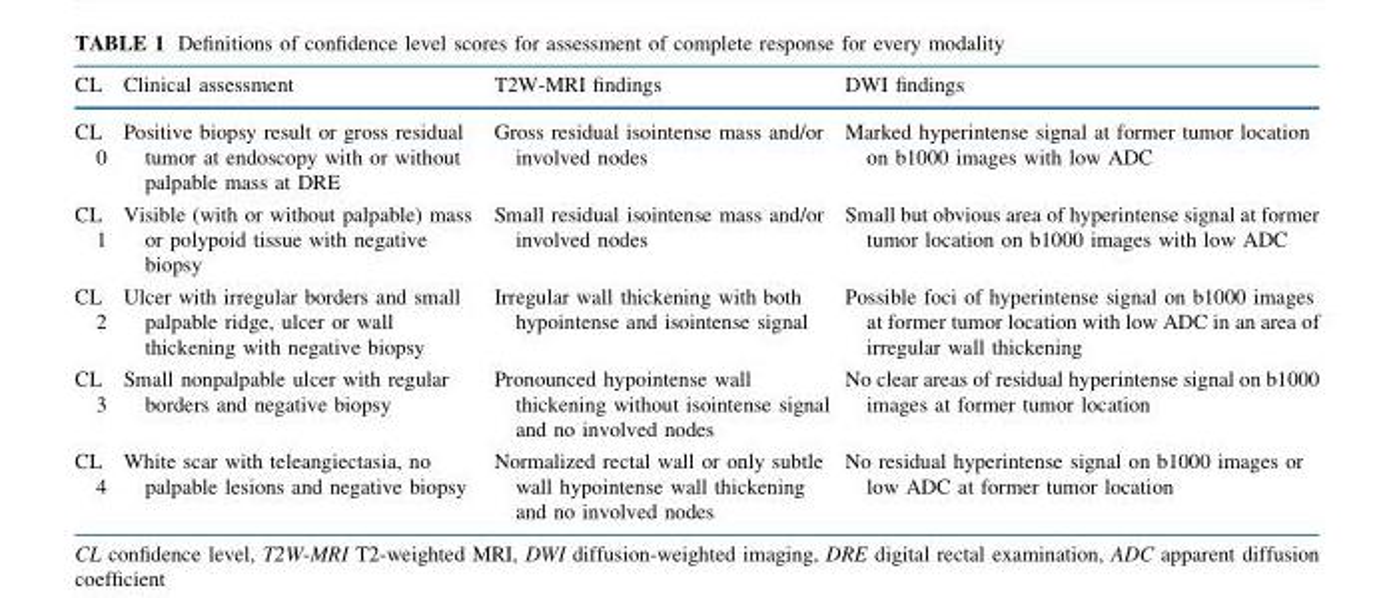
<table><thead><tr><td>CL</td><td>Clinical assessment</td><td>T2W-MRI findings</td><td>DWI findings</td></tr></thead><tbody><tr><td>CL 0</td><td>Positive biopsy result or gross residual tumor at endoscopy with or without palpable mass at DRE</td><td>Gross residual isointense mass and/or involved nodes</td><td>Marked hyperintense signal at former tumor location on b1000 images with low ADC</td></tr><tr><td>CL 1</td><td>Visible (with or without palpable) mass or polypoid tissue with negative biopsy</td><td>Small residual isointense mass and/or involved nodes</td><td>Small but obvious area of hyperintense signal at former tumor location on b1000 images with low ADC</td></tr><tr><td>CL 2</td><td>Ulcer with irregular borders and small palpable ridge, ulcer or wall thickening with negative biopsy</td><td>Irregular wall thickening with both hypointense and isointense signal</td><td>Possible foci of hyperintense signal on b1000 images at former tumor location with low ADC in an area of irregular wall thickening</td></tr><tr><td>CL 3</td><td>Small nonpalpable ulcer with regular borders and negative biopsy</td><td>Pronounced hypointense wall thickening without isointense signal and no involved nodes</td><td>No clear areas of residual hyperintense signal on b1000 images at former tumor location</td></tr><tr><td>CL 4</td><td>White scar with teleangiectasia, no palpable lesions and negative biopsy</td><td>Normalized rectal wall or only subtle wall hypointense wall thickening and no involved nodes</td><td>No residual hyperintense signal on b1000 images or low ADC at former tumor location</td></tr></tbody></table>